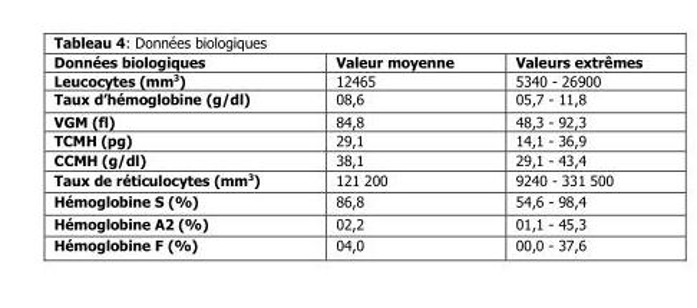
<table><thead><tr><td>Données biologiques</td><td>Valeur moyenne</td><td>Valeurs extrêmes</td></tr></thead><tbody><tr><td>Leucocytes (mm<sup>3</sup>)</td><td>12465</td><td>5340 - 26900</td></tr><tr><td>Taux d’hémoglobine (g/dl)</td><td>08,6</td><td>05,7 - 11,8</td></tr><tr><td>VGM (fl)</td><td>84,8</td><td>48,3 - 92,3</td></tr><tr><td>TCMH (pg)</td><td>29,1</td><td>14,1 - 36,9</td></tr><tr><td>CCMH (g/dl)</td><td>38,1</td><td>29,1 - 43,4</td></tr><tr><td>Taux de réticulocytes (mm<sup>3</sup>)</td><td>121 200</td><td>9240 - 331 500</td></tr><tr><td>Hémoglobine S (%)</td><td>86,8</td><td>54,6 - 98,4</td></tr><tr><td>Hémoglobine A2 (%)</td><td>02,2</td><td>01,1 - 45,3</td></tr><tr><td>Hémoglobine F (%)</td><td>04,0</td><td>00,0 - 37,6</td></tr></tbody></table>